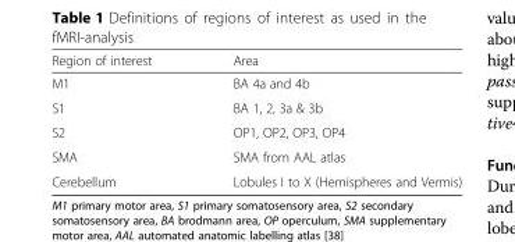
<table><thead><tr><td>Region of interest</td><td>Area</td></tr></thead><tbody><tr><td>M1</td><td>BA 4a and 4b</td></tr><tr><td>S1</td><td>BA 1, 2, 3a &amp; 3b</td></tr><tr><td>S2</td><td>OP1, OP2, OP3, OP4</td></tr><tr><td>SMA</td><td>SMA from AAL atlas</td></tr><tr><td>Cerebellum</td><td>Lobules I to X (Hemispheres and Vermis)</td></tr></tbody></table>